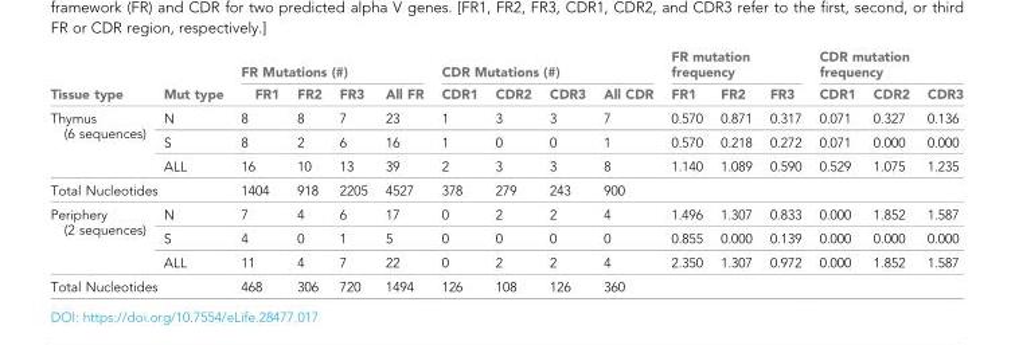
<table><thead><tr><td rowspan="2">Tissue type</td><td rowspan="2">Mut type</td><td colspan="4">FR Mutations (#)</td><td colspan="4">CDR Mutations (#)</td><td colspan="3">FR mutation frequency</td><td colspan="3">CDR mutation frequency</td></tr><tr><td>FR1</td><td>FR2</td><td>FR3</td><td>All FR</td><td>CDR1</td><td>CDR2</td><td>CDR3</td><td>All CDR</td><td>FR1</td><td>FR2</td><td>FR3</td><td>CDR1</td><td>CDR2</td><td>CDR3</td></tr></thead><tbody><tr><td rowspan="3">Thymus (6 sequences)</td><td>N</td><td>8</td><td>8</td><td>7</td><td>23</td><td>1</td><td>3</td><td>3</td><td>7</td><td>0.570</td><td>0.871</td><td>0.317</td><td>0.071</td><td>0.327</td><td>0.136</td></tr><tr><td>S</td><td>8</td><td>2</td><td>6</td><td>16</td><td>1</td><td>0</td><td>0</td><td>1</td><td>0.570</td><td>0.218</td><td>0.272</td><td>0.071</td><td>0.000</td><td>0.000</td></tr><tr><td>ALL</td><td>16</td><td>10</td><td>13</td><td>39</td><td>2</td><td>3</td><td>3</td><td>8</td><td>1.140</td><td>1.089</td><td>0.590</td><td>0.529</td><td>1.075</td><td>1.235</td></tr><tr><td colspan="2">Total Nucleotides</td><td>1404</td><td>918</td><td>2205</td><td>4527</td><td>378</td><td>279</td><td>243</td><td>900</td><td></td><td></td><td></td><td></td><td></td><td></td></tr><tr><td rowspan="3">Periphery (2 sequences)</td><td>N</td><td>7</td><td>4</td><td>6</td><td>17</td><td>0</td><td>2</td><td>2</td><td>4</td><td>1.496</td><td>1.307</td><td>0.833</td><td>0.000</td><td>1.852</td><td>1.587</td></tr><tr><td>S</td><td>4</td><td>0</td><td>1</td><td>5</td><td>0</td><td>0</td><td>0</td><td>0</td><td>0.855</td><td>0.000</td><td>0.139</td><td>0.000</td><td>0.000</td><td>0.000</td></tr><tr><td>ALL</td><td>11</td><td>4</td><td>7</td><td>22</td><td>0</td><td>2</td><td>2</td><td>4</td><td>2.350</td><td>1.307</td><td>0.972</td><td>0.000</td><td>1.852</td><td>1.587</td></tr><tr><td colspan="2">Total Nucleotides</td><td>468</td><td>306</td><td>720</td><td>1494</td><td>126</td><td>108</td><td>126</td><td>360</td><td></td><td></td><td></td><td></td><td></td><td></td></tr></tbody></table>